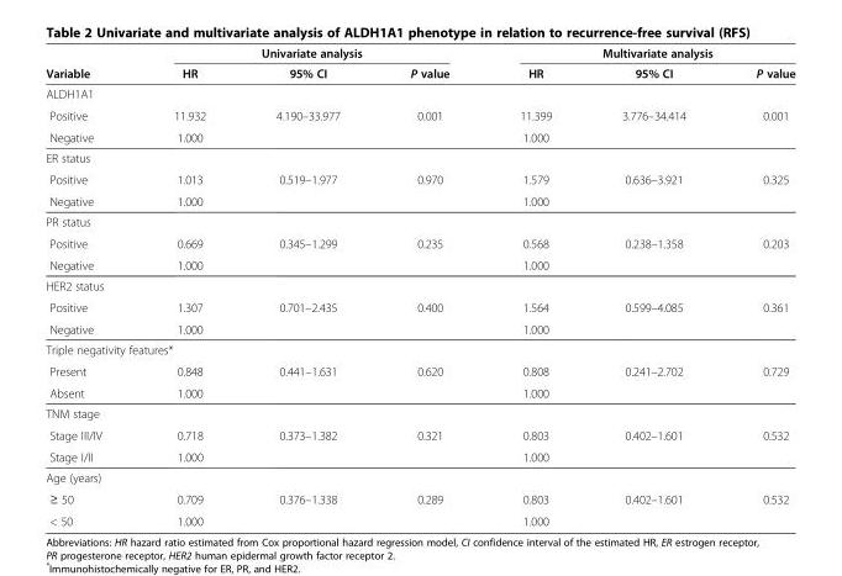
<table><thead><tr><td rowspan="2">Variable</td><td colspan="3">Univariate analysis</td><td colspan="3">Multivariate analysis</td></tr><tr><td>HR</td><td>95% CI</td><td>P value</td><td>HR</td><td>95% CI</td><td>P value</td></tr></thead><tbody><tr><td colspan="7">ALDH1A1</td></tr><tr><td>Positive</td><td>11.932</td><td>4.190–33.977</td><td>0.001</td><td>11.399</td><td>3.776–34.414</td><td>0.001</td></tr><tr><td>Negative</td><td>1.000</td><td></td><td></td><td>1.000</td><td></td><td></td></tr><tr><td colspan="7">ER status</td></tr><tr><td>Positive</td><td>1.013</td><td>0.519–1.977</td><td>0.970</td><td>1.579</td><td>0.636–3.921</td><td>0.325</td></tr><tr><td>Negative</td><td>1.000</td><td></td><td></td><td>1.000</td><td></td><td></td></tr><tr><td colspan="7">PR status</td></tr><tr><td>Positive</td><td>0.669</td><td>0.345–1.299</td><td>0.235</td><td>0.568</td><td>0.238–1.358</td><td>0.203</td></tr><tr><td>Negative</td><td>1.000</td><td></td><td></td><td>1.000</td><td></td><td></td></tr><tr><td colspan="7">HER2 status</td></tr><tr><td>Positive</td><td>1.307</td><td>0.701–2.435</td><td>0.400</td><td>1.564</td><td>0.599–4.085</td><td>0.361</td></tr><tr><td>Negative</td><td>1.000</td><td></td><td></td><td>1.000</td><td></td><td></td></tr><tr><td colspan="7">Triple negativity features*</td></tr><tr><td>Present</td><td>0.848</td><td>0.441–1.631</td><td>0.620</td><td>0.808</td><td>0.241–2.702</td><td>0.729</td></tr><tr><td>Absent</td><td>1.000</td><td></td><td></td><td>1.000</td><td></td><td></td></tr><tr><td colspan="7">TNM stage</td></tr><tr><td>Stage III/IV</td><td>0.718</td><td>0.373–1.382</td><td>0.321</td><td>0.803</td><td>0.402–1.601</td><td>0.532</td></tr><tr><td>Stage I/II</td><td>1.000</td><td></td><td></td><td>1.000</td><td></td><td></td></tr><tr><td colspan="7">Age (years)</td></tr><tr><td>≥ 50</td><td>0.709</td><td>0.376–1.338</td><td>0.289</td><td>0.803</td><td>0.402–1.601</td><td>0.532</td></tr><tr><td>&lt; 50</td><td>1.000</td><td></td><td></td><td>1.000</td><td></td><td></td></tr></tbody></table>